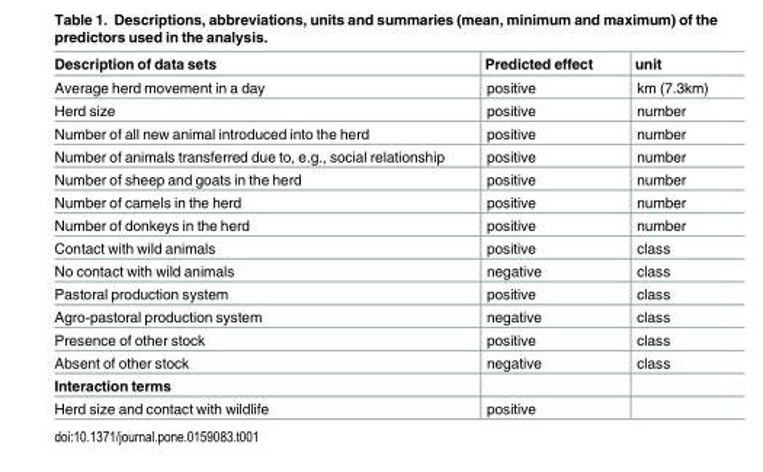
<table><thead><tr><td>Description of data sets</td><td>Predicted effect</td><td>unit</td></tr></thead><tbody><tr><td>Average herd movement in a day</td><td>positive</td><td>km (7.3km)</td></tr><tr><td>Herd size</td><td>positive</td><td>number</td></tr><tr><td>Number of all new animal introduced into the herd</td><td>positive</td><td>number</td></tr><tr><td>Number of animals transferred due to, e.g., social relationship</td><td>positive</td><td>number</td></tr><tr><td>Number of sheep and goats in the herd</td><td>positive</td><td>number</td></tr><tr><td>Number of camels in the herd</td><td>positive</td><td>number</td></tr><tr><td>Number of donkeys in the herd</td><td>positive</td><td>number</td></tr><tr><td>Contact with wild animals</td><td>positive</td><td>class</td></tr><tr><td>No contact with wild animals</td><td>negative</td><td>class</td></tr><tr><td>Pastoral production system</td><td>positive</td><td>class</td></tr><tr><td>Agro-pastoral production system</td><td>negative</td><td>class</td></tr><tr><td>Presence of other stock</td><td>positive</td><td>class</td></tr><tr><td>Absent of other stock</td><td>negative</td><td>class</td></tr><tr><td colspan="3">Interaction terms</td></tr><tr><td>Herd size and contact with wildlife</td><td>positive</td><td></td></tr></tbody></table>